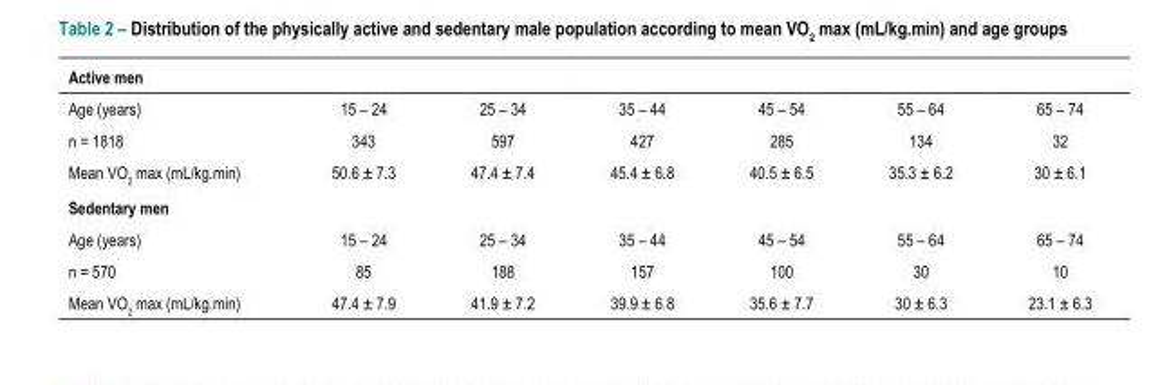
<table><thead><tr><td colspan="7">Active men</td></tr><tr><td>Age (years)</td><td>15 – 24</td><td>25 – 34</td><td>35 – 44</td><td>45 – 54</td><td>55 – 64</td><td>65 – 74</td></tr></thead><tbody><tr><td>n = 1818</td><td>343</td><td>597</td><td>427</td><td>285</td><td>134</td><td>32</td></tr><tr><td>Mean VO<sub>2</sub> max (mL/kg.min)</td><td>50.6 ± 7.3</td><td>47.4 ± 7.4</td><td>45.4 ± 6.8</td><td>40.5 ± 6.5</td><td>35.3 ± 6.2</td><td>30 ± 6.1</td></tr><tr><td colspan="7">Sedentary men</td></tr><tr><td>Age (years)</td><td>15 – 24</td><td>25 – 34</td><td>35 – 44</td><td>45 – 54</td><td>55 – 64</td><td>65 – 74</td></tr><tr><td>n = 570</td><td>85</td><td>188</td><td>157</td><td>100</td><td>30</td><td>10</td></tr><tr><td>Mean VO<sub>2</sub> max (mL/kg.min)</td><td>47.4 ± 7.9</td><td>41.9 ± 7.2</td><td>39.9 ± 6.8</td><td>35.6 ± 7.7</td><td>30 ± 6.3</td><td>23.1 ± 6.3</td></tr></tbody></table>